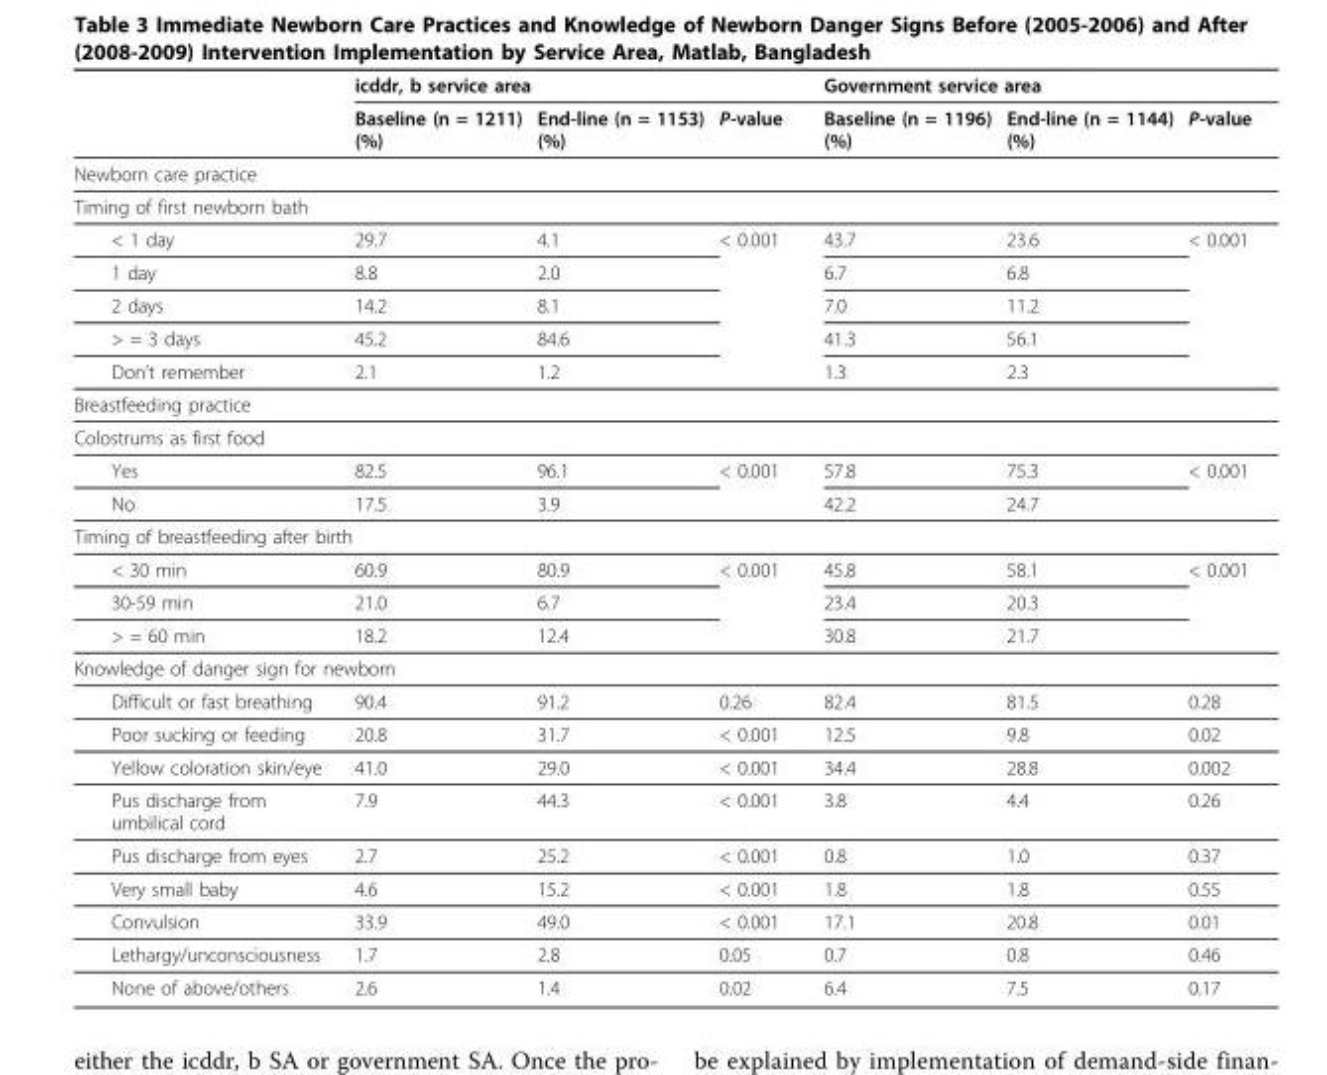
<table><thead><tr><td rowspan="2"></td><td colspan="3">icddr, b service area</td><td colspan="3">Government service area</td></tr><tr><td>Baseline (n = 1211) (%)</td><td>End-line (n = 1153) (%)</td><td>P-value</td><td>Baseline (n = 1196) (%)</td><td>End-line (n = 1144) (%)</td><td>P-value</td></tr></thead><tbody><tr><td colspan="7">Newborn care practice</td></tr><tr><td colspan="7">Timing of first newborn bath</td></tr><tr><td>&lt; 1 day</td><td>29.7</td><td>4.1</td><td>&lt; 0.001</td><td>43.7</td><td>23.6</td><td>&lt; 0.001</td></tr><tr><td>1 day</td><td>8.8</td><td>2.0</td><td></td><td>6.7</td><td>6.8</td><td></td></tr><tr><td>2 days</td><td>14.2</td><td>8.1</td><td></td><td>7.0</td><td>11.2</td><td></td></tr><tr><td>&gt; = 3 days</td><td>45.2</td><td>84.6</td><td></td><td>41.3</td><td>56.1</td><td></td></tr><tr><td>Don’t remember</td><td>2.1</td><td>1.2</td><td></td><td>1.3</td><td>2.3</td><td></td></tr><tr><td colspan="7">Breastfeeding practice</td></tr><tr><td colspan="7">Colostrums as first food</td></tr><tr><td>Yes</td><td>82.5</td><td>96.1</td><td>&lt; 0.001</td><td>57.8</td><td>75.3</td><td>&lt; 0.001</td></tr><tr><td>No</td><td>17.5</td><td>3.9</td><td></td><td>42.2</td><td>24.7</td><td></td></tr><tr><td colspan="7">Timing of breastfeeding after birth</td></tr><tr><td>&lt; 30 min</td><td>60.9</td><td>80.9</td><td>&lt; 0.001</td><td>45.8</td><td>58.1</td><td>&lt; 0.001</td></tr><tr><td>30-59 min</td><td>21.0</td><td>6.7</td><td></td><td>23.4</td><td>20.3</td><td></td></tr><tr><td>&gt; = 60 min</td><td>18.2</td><td>12.4</td><td></td><td>30.8</td><td>21.7</td><td></td></tr><tr><td colspan="7">Knowledge of danger sign for newborn</td></tr><tr><td>Difficult or fast breathing</td><td>90.4</td><td>91.2</td><td>0.26</td><td>82.4</td><td>81.5</td><td>0.28</td></tr><tr><td>Poor sucking or feeding</td><td>20.8</td><td>31.7</td><td>&lt; 0.001</td><td>12.5</td><td>9.8</td><td>0.02</td></tr><tr><td>Yellow coloration skin/eye</td><td>41.0</td><td>29.0</td><td>&lt; 0.001</td><td>34.4</td><td>28.8</td><td>0.002</td></tr><tr><td>Pus discharge from umbilical cord</td><td>7.9</td><td>44.3</td><td>&lt; 0.001</td><td>3.8</td><td>4.4</td><td>0.26</td></tr><tr><td>Pus discharge from eyes</td><td>2.7</td><td>25.2</td><td>&lt; 0.001</td><td>0.8</td><td>1.0</td><td>0.37</td></tr><tr><td>Very small baby</td><td>4.6</td><td>15.2</td><td>&lt; 0.001</td><td>1.8</td><td>1.8</td><td>0.55</td></tr><tr><td>Convulsion</td><td>33.9</td><td>49.0</td><td>&lt; 0.001</td><td>17.1</td><td>20.8</td><td>0.01</td></tr><tr><td>Lethargy/unconsciousness</td><td>1.7</td><td>2.8</td><td>0.05</td><td>0.7</td><td>0.8</td><td>0.46</td></tr><tr><td>None of above/others</td><td>2.6</td><td>1.4</td><td>0.02</td><td>6.4</td><td>7.5</td><td>0.17</td></tr></tbody></table>